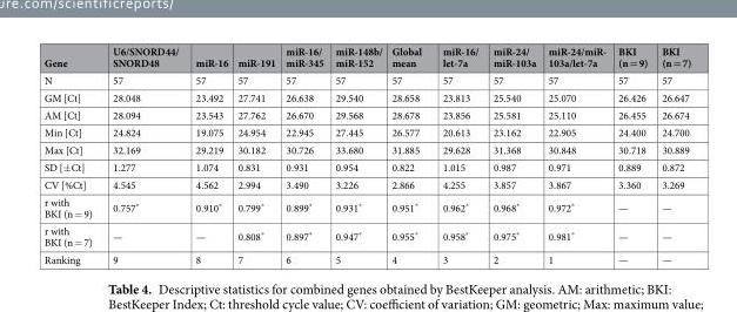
<table><thead><tr><td>Gene</td><td>U6/SNORD44/ SNORD48</td><td>miR-16</td><td>miR-191</td><td>miR-16/ miR-345</td><td>miR-148b/ miR-152</td><td>Global mean</td><td>miR-16/ let-7a</td><td>miR-24/ miR-103a</td><td>miR-24/miR- 103a/let-7a</td><td>BKI (n = 9)</td><td>BKI (n = 7)</td></tr></thead><tbody><tr><td>N</td><td>57</td><td>57</td><td>57</td><td>57</td><td>57</td><td>57</td><td>57</td><td>57</td><td>57</td><td>57</td><td>57</td></tr><tr><td>GM [Ct]</td><td>28.048</td><td>23.492</td><td>27.741</td><td>26.638</td><td>29.540</td><td>28.658</td><td>23.813</td><td>25.540</td><td>25.070</td><td>26.426</td><td>26.647</td></tr><tr><td>AM [Ct]</td><td>28.094</td><td>23.543</td><td>27.762</td><td>26.670</td><td>29.568</td><td>28.678</td><td>23.856</td><td>25.581</td><td>25.110</td><td>26.455</td><td>26.674</td></tr><tr><td>Min [Ct]</td><td>24.824</td><td>19.075</td><td>24.954</td><td>22.945</td><td>27.445</td><td>26.577</td><td>20.613</td><td>23.162</td><td>22.905</td><td>24.400</td><td>24.700</td></tr><tr><td>Max [Ct]</td><td>32.169</td><td>29.219</td><td>30.182</td><td>30.726</td><td>33.680</td><td>31.885</td><td>29.628</td><td>31.368</td><td>30.848</td><td>30.718</td><td>30.889</td></tr><tr><td>SD [±Ct]</td><td>1.277</td><td>1.074</td><td>0.831</td><td>0.931</td><td>0.954</td><td>0.822</td><td>1.015</td><td>0.987</td><td>0.971</td><td>0.889</td><td>0.872</td></tr><tr><td>CV [%Ct]</td><td>4.545</td><td>4.562</td><td>2.994</td><td>3.490</td><td>3.226</td><td>2.866</td><td>4.255</td><td>3.857</td><td>3.867</td><td>3.360</td><td>3.269</td></tr><tr><td>r with BKI (n = 9)</td><td>0.757*</td><td>0.910*</td><td>0.799*</td><td>0.899*</td><td>0.931*</td><td>0.951*</td><td>0.962*</td><td>0.968*</td><td>0.972*</td><td>—</td><td>—</td></tr><tr><td>r with BKI (n = 7)</td><td>—</td><td>—</td><td>0.808*</td><td>0.897*</td><td>0.947*</td><td>0.955*</td><td>0.958*</td><td>0.975*</td><td>0.981*</td><td>—</td><td>—</td></tr><tr><td>Ranking</td><td>9</td><td>8</td><td>7</td><td>6</td><td>5</td><td>4</td><td>3</td><td>2</td><td>1</td><td>—</td><td>—</td></tr></tbody></table>